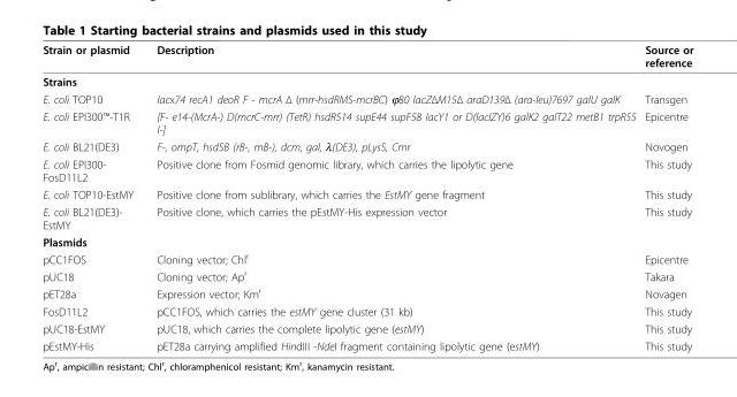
<table><thead><tr><td>Strain or plasmid</td><td>Description</td><td>Source or reference</td></tr></thead><tbody><tr><td colspan="3">Strains</td></tr><tr><td>E. coli TOP10</td><td>lacх74 recA1 deoR F - mcrA Δ (mrr-hsdRMS-mcrBC) ϕ80 lacZΔM15Δ araD139Δ (ara-leu)7697 galU galK</td><td>Transgen</td></tr><tr><td>E. coli EPI300™-T1R</td><td>[F- e14-(McrA-) D(mcrC-mrr) (TetR) hsdR514 supE44 supF58 lacY1 or D(lacIZY)6 galK2 galT22 metB1 trpR55 l-]</td><td>Epicentre</td></tr><tr><td>E. coli BL21(DE3)</td><td>F-, ompT, hsdSB (rB-, mB-), dcm, gal, λ(DE3), pLysS, Cmr</td><td>Novogen</td></tr><tr><td>E. coli EPI300- FosD11L2</td><td>Positive clone from Fosmid genomic library, which carries the lipolytic gene</td><td>This study</td></tr><tr><td>E. coli TOP10-EstMY</td><td>Positive clone from sublibrary, which carries the EstMY gene fragment</td><td>This study</td></tr><tr><td>E. coli BL21(DE3)- EstMY</td><td>Positive clone, which carries the pEstMY-His expression vector</td><td>This study</td></tr><tr><td colspan="3">Plasmids</td></tr><tr><td>pCC1FOS</td><td>Cloning vector; Chl<sup>r</sup></td><td>Epicentre</td></tr><tr><td>pUC18</td><td>Cloning vector; Ap<sup>r</sup></td><td>Takara</td></tr><tr><td>pET28a</td><td>Expression vector; Km<sup>r</sup></td><td>Novagen</td></tr><tr><td>FosD11L2</td><td>pCC1FOS, which carries the estMY gene cluster (31 kb)</td><td>This study</td></tr><tr><td>pUC18-EstMY</td><td>pUC18, which carries the complete lipolytic gene (estMY)</td><td>This study</td></tr><tr><td>pEstMY-His</td><td>pET28a carrying amplified HindIII -NdeI fragment containing lipolytic gene (estMY)</td><td>This study</td></tr></tbody></table>